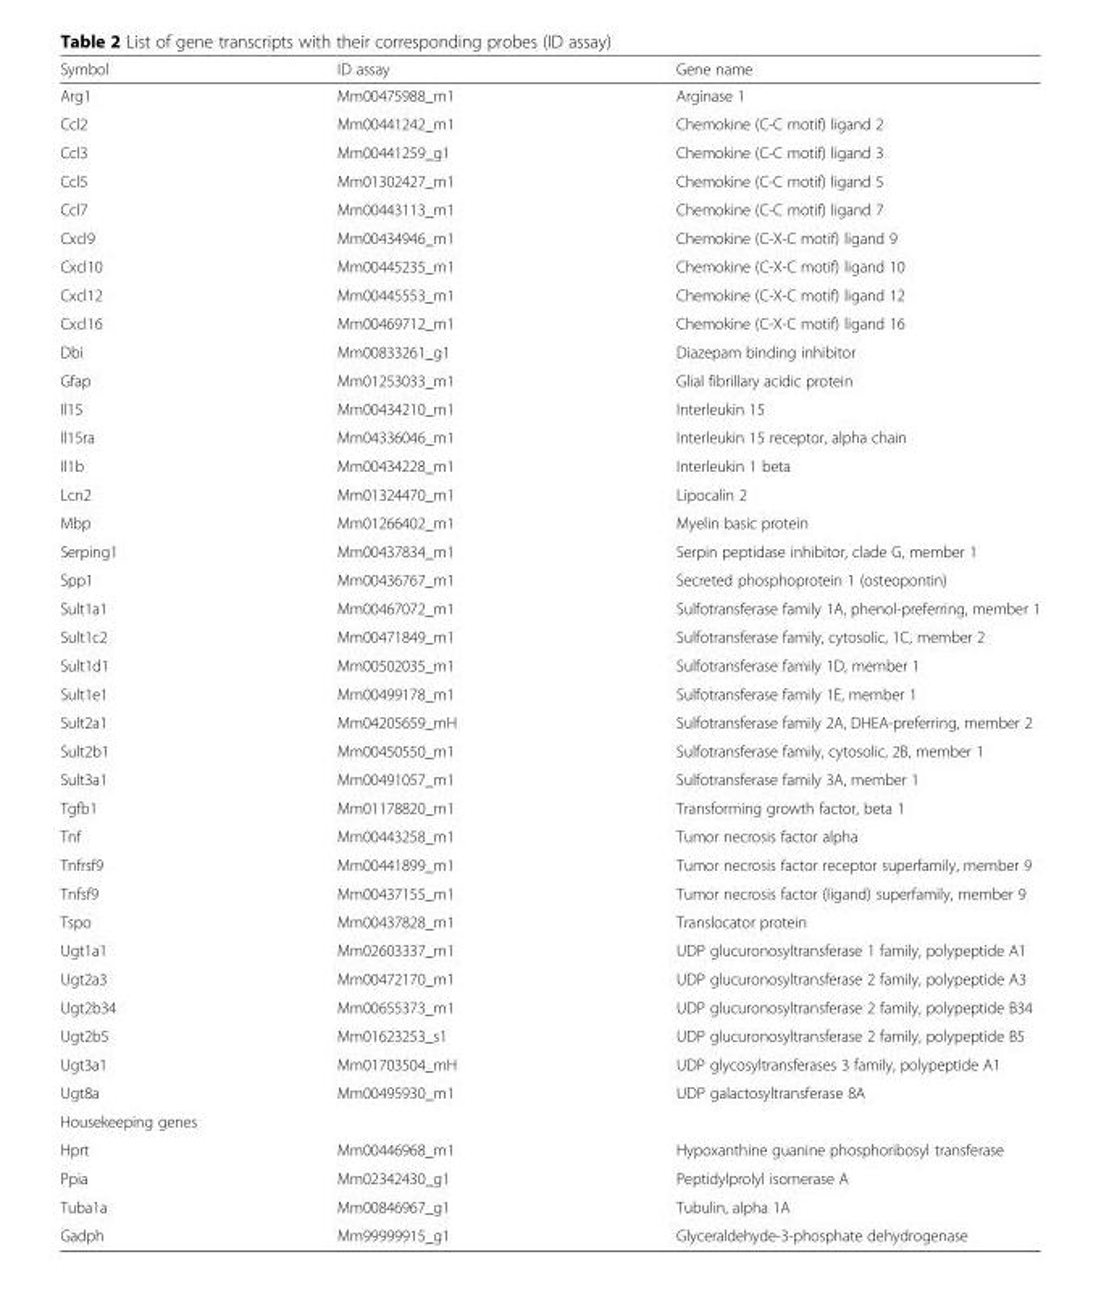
<table><thead><tr><td>Symbol</td><td>ID assay</td><td>Gene name</td></tr></thead><tbody><tr><td>Arg1</td><td>Mm00475988_m1</td><td>Arginase 1</td></tr><tr><td>Ccl2</td><td>Mm00441242_m1</td><td>Chemokine (C-C motif) ligand 2</td></tr><tr><td>Ccl3</td><td>Mm00441259_g1</td><td>Chemokine (C-C motif) ligand 3</td></tr><tr><td>Ccl5</td><td>Mm01302427_m1</td><td>Chemokine (C-C motif) ligand 5</td></tr><tr><td>Ccl7</td><td>Mm00443113_m1</td><td>Chemokine (C-C motif) ligand 7</td></tr><tr><td>Cxcl9</td><td>Mm00434946_m1</td><td>Chemokine (C-X-C motif) ligand 9</td></tr><tr><td>Cxcl10</td><td>Mm00445235_m1</td><td>Chemokine (C-X-C motif) ligand 10</td></tr><tr><td>Cxcl12</td><td>Mm00445553_m1</td><td>Chemokine (C-X-C motif) ligand 12</td></tr><tr><td>Cxcl16</td><td>Mm00469712_m1</td><td>Chemokine (C-X-C motif) ligand 16</td></tr><tr><td>Dbi</td><td>Mm00833261_g1</td><td>Diazepam binding inhibitor</td></tr><tr><td>Gfap</td><td>Mm01253033_m1</td><td>Glial fibrillary acidic protein</td></tr><tr><td>Il15</td><td>Mm00434210_m1</td><td>Interleukin 15</td></tr><tr><td>Il15ra</td><td>Mm04336046_m1</td><td>Interleukin 15 receptor, alpha chain</td></tr><tr><td>Il1b</td><td>Mm00434228_m1</td><td>Interleukin 1 beta</td></tr><tr><td>Lcn2</td><td>Mm01324470_m1</td><td>Lipocalin 2</td></tr><tr><td>Mbp</td><td>Mm01266402_m1</td><td>Myelin basic protein</td></tr><tr><td>Serping1</td><td>Mm00437834_m1</td><td>Serpin peptidase inhibitor, clade G, member 1</td></tr><tr><td>Spp1</td><td>Mm00436767_m1</td><td>Secreted phosphoprotein 1 (osteopontin)</td></tr><tr><td>Sult1a1</td><td>Mm00467072_m1</td><td>Sulfotransferase family 1A, phenol-preferring, member 1</td></tr><tr><td>Sult1c2</td><td>Mm00471849_m1</td><td>Sulfotransferase family, cytosolic, 1C, member 2</td></tr><tr><td>Sult1d1</td><td>Mm00502035_m1</td><td>Sulfotransferase family 1D, member 1</td></tr><tr><td>Sult1e1</td><td>Mm00499178_m1</td><td>Sulfotransferase family 1E, member 1</td></tr><tr><td>Sult2a1</td><td>Mm04205659_mH</td><td>Sulfotransferase family 2A, DHEA-preferring, member 2</td></tr><tr><td>Sult2b1</td><td>Mm00450550_m1</td><td>Sulfotransferase family, cytosolic, 2B, member 1</td></tr><tr><td>Sult3a1</td><td>Mm00491057_m1</td><td>Sulfotransferase family 3A, member 1</td></tr><tr><td>Tgfb1</td><td>Mm01178820_m1</td><td>Transforming growth factor, beta 1</td></tr><tr><td>Tnf</td><td>Mm00443258_m1</td><td>Tumor necrosis factor alpha</td></tr><tr><td>Tnfrsf9</td><td>Mm00441899_m1</td><td>Tumor necrosis factor receptor superfamily, member 9</td></tr><tr><td>Tnfsf9</td><td>Mm00437155_m1</td><td>Tumor necrosis factor (ligand) superfamily, member 9</td></tr><tr><td>Tspo</td><td>Mm00437828_m1</td><td>Translocator protein</td></tr><tr><td>Ugt1a1</td><td>Mm02603337_m1</td><td>UDP glucuronosyltransferase 1 family, polypeptide A1</td></tr><tr><td>Ugt2a3</td><td>Mm00472170_m1</td><td>UDP glucuronosyltransferase 2 family, polypeptide A3</td></tr><tr><td>Ugt2b34</td><td>Mm00655373_m1</td><td>UDP glucuronosyltransferase 2 family, polypeptide B34</td></tr><tr><td>Ugt2b5</td><td>Mm01623253_s1</td><td>UDP glucuronosyltransferase 2 family, polypeptide B5</td></tr><tr><td>Ugt3a1</td><td>Mm01703504_mH</td><td>UDP glycosyltransferases 3 family, polypeptide A1</td></tr><tr><td>Ugt8a</td><td>Mm00495930_m1</td><td>UDP galactosyltransferase 8A</td></tr><tr><td colspan="3">Housekeeping genes</td></tr><tr><td>Hprt</td><td>Mm00446968_m1</td><td>Hypoxanthine guanine phosphoribosyl transferase</td></tr><tr><td>Ppia</td><td>Mm02342430_g1</td><td>Peptidylprolyl isomerase A</td></tr><tr><td>Tuba1a</td><td>Mm00846967_g1</td><td>Tubulin, alpha 1A</td></tr><tr><td>Gadph</td><td>Mm99999915_g1</td><td>Glyceraldehyde-3-phosphate dehydrogenase</td></tr></tbody></table>